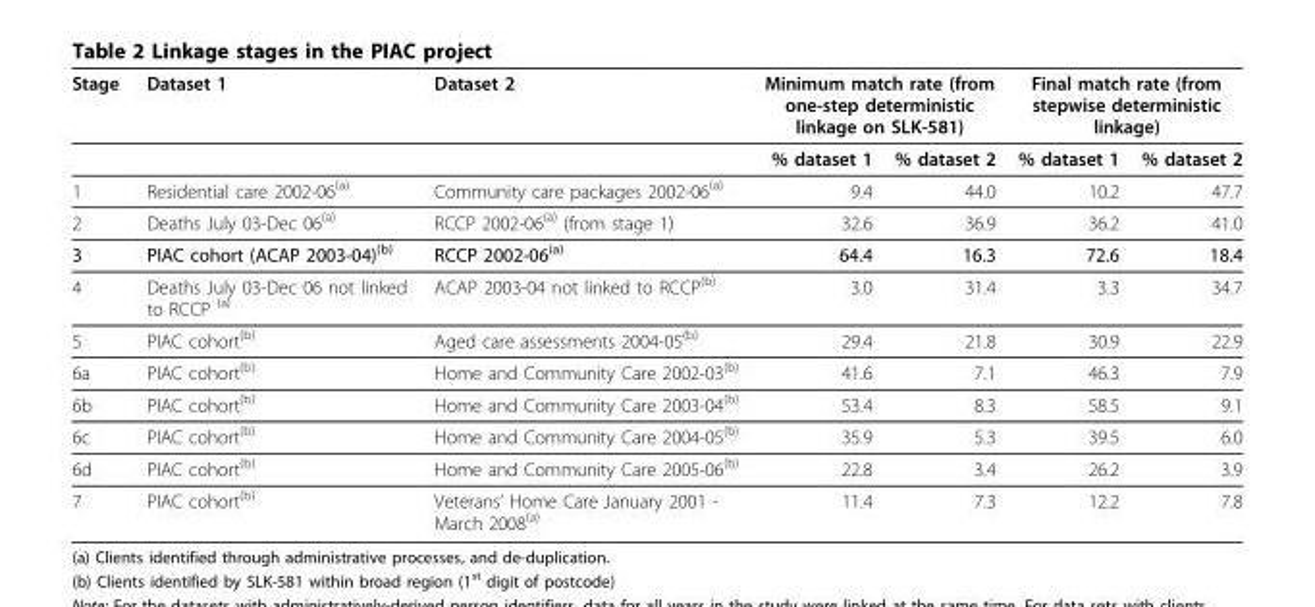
<table><thead><tr><td rowspan="2">Stage</td><td rowspan="2">Dataset 1</td><td rowspan="2">Dataset 2</td><td colspan="2">Minimum match rate (from one-step deterministic linkage on SLK-581)</td><td colspan="2">Final match rate (from stepwise deterministic linkage)</td></tr><tr><td>% dataset 1</td><td>% dataset 2</td><td>% dataset 1</td><td>% dataset 2</td></tr></thead><tbody><tr><td>1</td><td>Residential care 2002-06<sup>(a)</sup></td><td>Community care packages 2002-06<sup>(a)</sup></td><td>9.4</td><td>44.0</td><td>10.2</td><td>47.7</td></tr><tr><td>2</td><td>Deaths July 03-Dec 06<sup>(a)</sup></td><td>RCCP 2002-06<sup>(a)</sup> (from stage 1)</td><td>32.6</td><td>36.9</td><td>36.2</td><td>41.0</td></tr><tr><td>3</td><td>PIAC cohort (ACAP 2003-04)<sup>(b)</sup></td><td>RCCP 2002-06<sup>(a)</sup></td><td>64.4</td><td>16.3</td><td>72.6</td><td>18.4</td></tr><tr><td>4</td><td>Deaths July 03-Dec 06 not linked to RCCP <sup>(a)</sup></td><td>ACAP 2003-04 not linked to RCCP<sup>(b)</sup></td><td>3.0</td><td>31.4</td><td>3.3</td><td>34.7</td></tr><tr><td>5</td><td>PIAC cohort<sup>(b)</sup></td><td>Aged care assessments 2004-05<sup>(b)</sup></td><td>29.4</td><td>21.8</td><td>30.9</td><td>22.9</td></tr><tr><td>6a</td><td>PIAC cohort<sup>(b)</sup></td><td>Home and Community Care 2002-03<sup>(b)</sup></td><td>41.6</td><td>7.1</td><td>46.3</td><td>7.9</td></tr><tr><td>6b</td><td>PIAC cohort<sup>(b)</sup></td><td>Home and Community Care 2003-04<sup>(b)</sup></td><td>53.4</td><td>8.3</td><td>58.5</td><td>9.1</td></tr><tr><td>6c</td><td>PIAC cohort<sup>(b)</sup></td><td>Home and Community Care 2004-05<sup>(b)</sup></td><td>35.9</td><td>5.3</td><td>39.5</td><td>6.0</td></tr><tr><td>6d</td><td>PIAC cohort<sup>(b)</sup></td><td>Home and Community Care 2005-06<sup>(b)</sup></td><td>22.8</td><td>3.4</td><td>26.2</td><td>3.9</td></tr><tr><td>7</td><td>PIAC cohort<sup>(b)</sup></td><td>Veterans’ Home Care January 2001 - March 2008<sup>(a)</sup></td><td>11.4</td><td>7.3</td><td>12.2</td><td>7.8</td></tr></tbody></table>